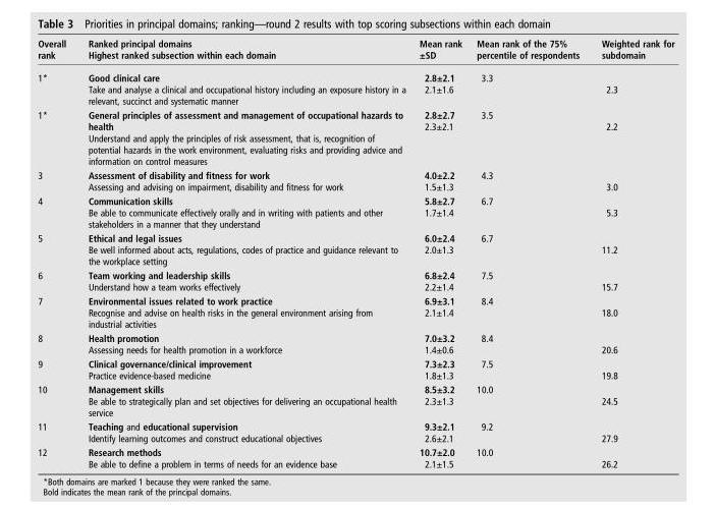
<table><thead><tr><td>Overall rank</td><td>Ranked principal domains Highest ranked subsection within each domain</td><td>Mean rank ±SD</td><td>Mean rank of the 75% percentile of respondents</td><td>Weighted rank for subdomain</td></tr></thead><tbody><tr><td rowspan="2">1*</td><td rowspan="2">Good clinical care Take and analyse a clinical and occupational history including an exposure history in a relevant, succinct and systematic manner</td><td>2.8±2.1</td><td rowspan="2">3.3</td><td></td></tr><tr><td>2.1±1.6</td><td>2.3</td></tr><tr><td rowspan="2">1*</td><td rowspan="2">General principles of assessment and management of occupational hazards to health Understand and apply the principles of risk assessment, that is, recognition of potential hazards in the work environment, evaluating risks and providing advice and information on control measures</td><td>2.8±2.7</td><td rowspan="2">3.5</td><td></td></tr><tr><td>2.3±2.1</td><td>2.2</td></tr><tr><td rowspan="2">3</td><td rowspan="2">Assessment of disability and fitness for work Assessing and advising on impairment, disability and fitness for work</td><td>4.0±2.2</td><td rowspan="2">4.3</td><td></td></tr><tr><td>1.5±1.3</td><td>3.0</td></tr><tr><td rowspan="2">4</td><td rowspan="2">Communication skills Be able to communicate effectively orally and in writing with patients and other stakeholders in a manner that they understand</td><td>5.8±2.7</td><td rowspan="2">6.7</td><td></td></tr><tr><td>1.7±1.4</td><td>5.3</td></tr><tr><td rowspan="2">5</td><td rowspan="2">Ethical and legal issues Be well informed about acts, regulations, codes of practice and guidance relevant to the workplace setting</td><td>6.0±2.4</td><td rowspan="2">6.7</td><td></td></tr><tr><td>2.0±1.3</td><td>11.2</td></tr><tr><td rowspan="2">6</td><td rowspan="2">Team working and leadership skills Understand how a team works effectively</td><td>6.8±2.4</td><td rowspan="2">7.5</td><td></td></tr><tr><td>2.2±1.4</td><td>15.7</td></tr><tr><td rowspan="2">7</td><td rowspan="2">Environmental issues related to work practice Recognise and advise on health risks in the general environment arising from industrial activities</td><td>6.9±3.1</td><td rowspan="2">8.4</td><td></td></tr><tr><td>2.1±1.4</td><td>18.0</td></tr><tr><td rowspan="2">8</td><td rowspan="2">Health promotion Assessing needs for health promotion in a workforce</td><td>7.0±3.2</td><td rowspan="2">8.4</td><td></td></tr><tr><td>1.4±0.6</td><td>20.6</td></tr><tr><td rowspan="2">9</td><td rowspan="2">Clinical governance/clinical improvement Practice evidence-based medicine</td><td>7.3±2.3</td><td rowspan="2">7.5</td><td></td></tr><tr><td>1.8±1.3</td><td>19.8</td></tr><tr><td rowspan="2">10</td><td rowspan="2">Management skills Be able to strategically plan and set objectives for delivering an occupational health service</td><td>8.5±3.2</td><td rowspan="2">10.0</td><td></td></tr><tr><td>2.3±1.3</td><td>24.5</td></tr><tr><td rowspan="2">11</td><td rowspan="2">Teaching and educational supervision Identify learning outcomes and construct educational objectives</td><td>9.3±2.1</td><td rowspan="2">9.2</td><td></td></tr><tr><td>2.6±2.1</td><td>27.9</td></tr><tr><td rowspan="2">12</td><td rowspan="2">Research methods Be able to define a problem in terms of needs for an evidence base</td><td>10.7±2.0</td><td rowspan="2">10.0</td><td></td></tr><tr><td>2.1±1.5</td><td>26.2</td></tr></tbody></table>